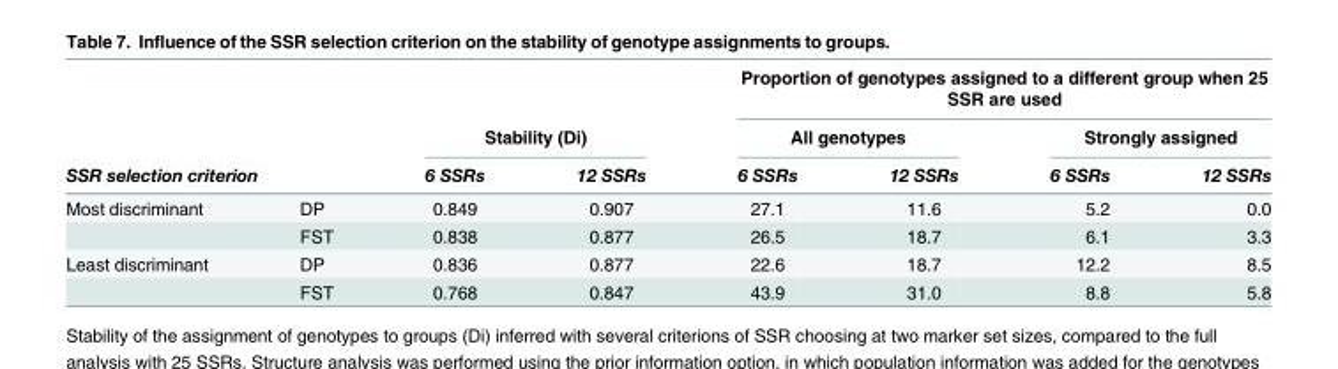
<table><thead><tr><td rowspan="2"></td><td rowspan="2"></td><td></td><td></td><td colspan="4">Proportion of genotypes assigned to a different group when 25 SSR are used</td></tr><tr><td colspan="2">Stability (Di)</td><td colspan="2">All genotypes</td><td colspan="2">Strongly assigned</td></tr><tr><td colspan="2">SSR selection criterion</td><td>6 SSRs</td><td>12 SSRs</td><td>6 SSRs</td><td>12 SSRs</td><td>6 SSRs</td><td>12 SSRs</td></tr></thead><tbody><tr><td rowspan="2">Most discriminant</td><td>DP</td><td>0.849</td><td>0.907</td><td>27.1</td><td>11.6</td><td>5.2</td><td>0.0</td></tr><tr><td>FST</td><td>0.838</td><td>0.877</td><td>26.5</td><td>18.7</td><td>6.1</td><td>3.3</td></tr><tr><td rowspan="2">Least discriminant</td><td>DP</td><td>0.836</td><td>0.877</td><td>22.6</td><td>18.7</td><td>12.2</td><td>8.5</td></tr><tr><td>FST</td><td>0.768</td><td>0.847</td><td>43.9</td><td>31.0</td><td>8.8</td><td>5.8</td></tr></tbody></table>